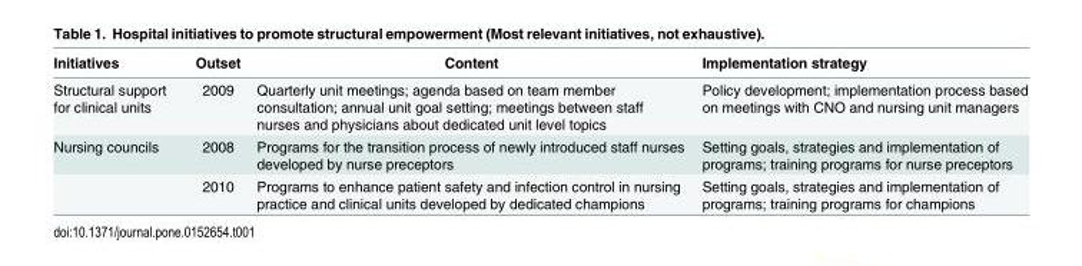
<table><thead><tr><td>Initiatives</td><td>Outset</td><td>Content</td><td>Implementation strategy</td></tr></thead><tbody><tr><td>Structural support for clinical units</td><td>2009</td><td>Quarterly unit meetings; agenda based on team member consultation; annual unit goal setting; meetings between staff nurses and physicians about dedicated unit level topics</td><td>Policy development; implementation process based on meetings with CNO and nursing unit managers</td></tr><tr><td rowspan="2">Nursing councils</td><td>2008</td><td>Programs for the transition process of newly introduced staff nurses developed by nurse preceptors</td><td>Setting goals, strategies and implementation of programs; training programs for nurse preceptors</td></tr><tr><td>2010</td><td>Programs to enhance patient safety and infection control in nursing practice and clinical units developed by dedicated champions</td><td>Setting goals, strategies and implementation of programs; training programs for champions</td></tr></tbody></table>